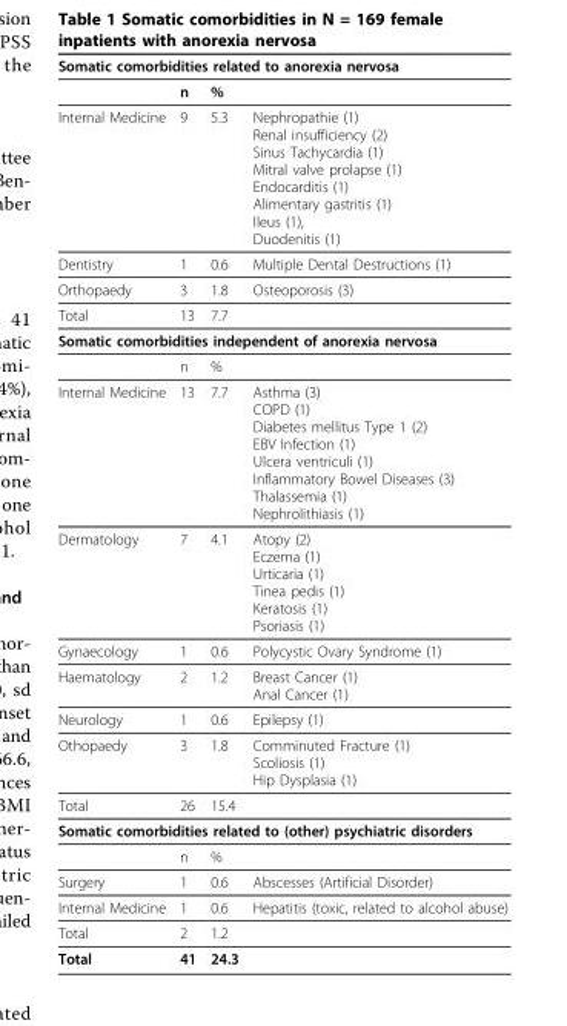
<table><thead><tr><td colspan="4">Somatic comorbidities related to anorexia nervosa</td></tr><tr><td></td><td>n</td><td>%</td><td></td></tr></thead><tbody><tr><td>Internal Medicine</td><td>9</td><td>5.3</td><td>Nephropathie (1) Renal insufficiency (2) Sinus Tachycardia (1) Mitral valve prolapse (1) Endocarditis (1) Alimentary gastritis (1) Ileus (1), Duodenitis (1)</td></tr><tr><td>Dentistry</td><td>1</td><td>0.6</td><td>Multiple Dental Destructions (1)</td></tr><tr><td>Orthopaedy</td><td>3</td><td>1.8</td><td>Osteoporosis (3)</td></tr><tr><td>Total</td><td>13</td><td>7.7</td><td></td></tr><tr><td colspan="4">Somatic comorbidities independent of anorexia nervosa</td></tr><tr><td></td><td>n</td><td>%</td><td></td></tr><tr><td>Internal Medicine</td><td>13</td><td>7.7</td><td>Asthma (3) COPD (1) Diabetes mellitus Type 1 (2) EBV Infection (1) Ulcera ventriculi (1) Inflammatory Bowel Diseases (3) Thalassemia (1) Nephrolithiasis (1)</td></tr><tr><td>Dermatology</td><td>7</td><td>4.1</td><td>Atopy (2) Eczema (1) Urticaria (1) Tinea pedis (1) Keratosis (1) Psoriasis (1)</td></tr><tr><td>Gynaecology</td><td>1</td><td>0.6</td><td>Polycystic Ovary Syndrome (1)</td></tr><tr><td>Haematology</td><td>2</td><td>1.2</td><td>Breast Cancer (1) Anal Cancer (1)</td></tr><tr><td>Neurology</td><td>1</td><td>0.6</td><td>Epilepsy (1)</td></tr><tr><td>Othopaedy</td><td>3</td><td>1.8</td><td>Comminuted Fracture (1) Scoliosis (1) Hip Dysplasia (1)</td></tr><tr><td>Total</td><td>26</td><td>15.4</td><td></td></tr><tr><td colspan="4">Somatic comorbidities related to (other) psychiatric disorders</td></tr><tr><td></td><td>n</td><td>%</td><td></td></tr><tr><td>Surgery</td><td>1</td><td>0.6</td><td>Abscesses (Artificial Disorder)</td></tr><tr><td>Internal Medicine</td><td>1</td><td>0.6</td><td>Hepatitis (toxic, related to alcohol abuse)</td></tr><tr><td>Total</td><td>2</td><td>1.2</td><td></td></tr><tr><td>Total</td><td>41</td><td>24.3</td><td></td></tr></tbody></table>